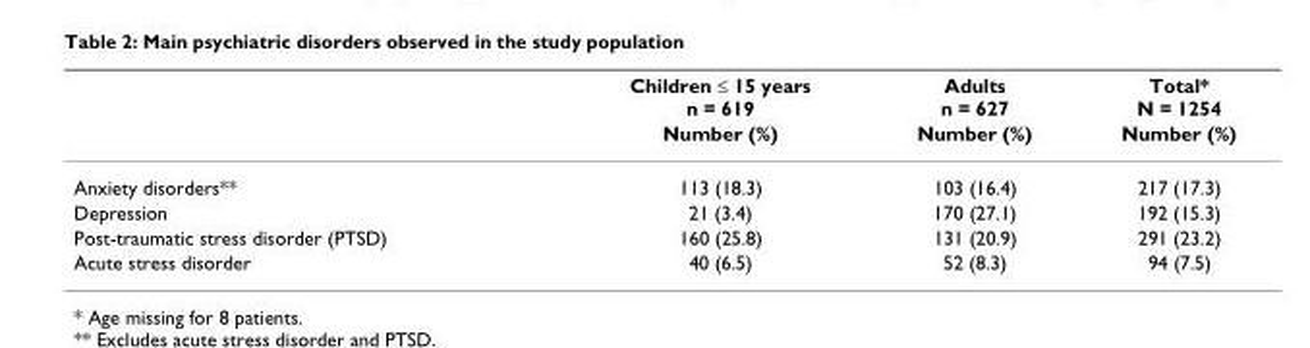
<table><thead><tr><td rowspan="2"></td><td rowspan="2">Children ≤ 15 years n = 619 Number (%)</td><td rowspan="2">Adults n = 627 Number (%)</td><td rowspan="2">Total* N = 1254 Number (%)</td></tr><tr></tr></thead><tbody><tr><td>Anxiety disorders**</td><td>113 (18.3)</td><td>103 (16.4)</td><td>217 (17.3)</td></tr><tr><td>Depression</td><td>21 (3.4)</td><td>170 (27.1)</td><td>192 (15.3)</td></tr><tr><td>Post-traumatic stress disorder (PTSD)</td><td>160 (25.8)</td><td>131 (20.9)</td><td>291 (23.2)</td></tr><tr><td>Acute stress disorder</td><td>40 (6.5)</td><td>52 (8.3)</td><td>94 (7.5)</td></tr></tbody></table>